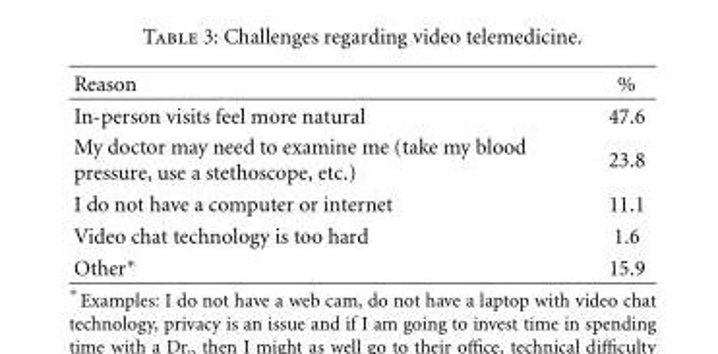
<table><thead><tr><td>Reason</td><td>%</td></tr></thead><tbody><tr><td>In-person visits feel more natural</td><td>47.6</td></tr><tr><td>My doctor may need to examine me (take my blood pressure, use a stethoscope, etc.)</td><td>23.8</td></tr><tr><td>I do not have a computer or internet</td><td>11.1</td></tr><tr><td>Video chat technology is too hard</td><td>1.6</td></tr><tr><td>Other∗</td><td>15.9</td></tr></tbody></table>